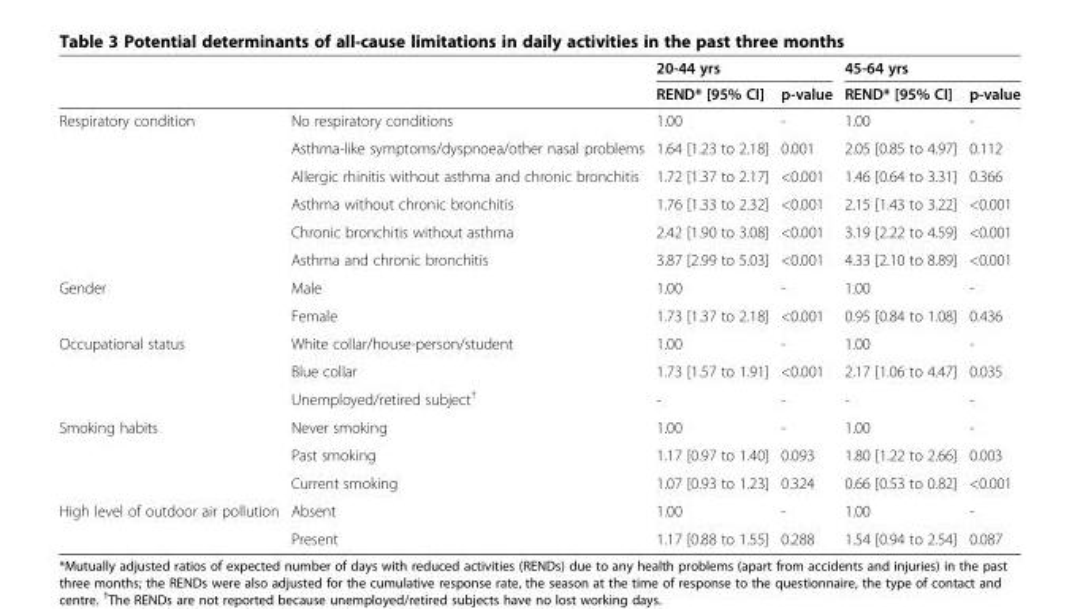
<table><thead><tr><td rowspan="2"></td><td rowspan="2"></td><td colspan="2">20-44 yrs</td><td colspan="2">45-64 yrs</td></tr><tr><td>REND* [95% CI]</td><td>p-value</td><td>REND* [95% CI]</td><td>p-value</td></tr></thead><tbody><tr><td rowspan="6">Respiratory condition</td><td>No respiratory conditions</td><td>1.00</td><td>-</td><td>1.00</td><td>-</td></tr><tr><td>Asthma-like symptoms/dyspnoea/other nasal problems</td><td>1.64 [1.23 to 2.18]</td><td>0.001</td><td>2.05 [0.85 to 4.97]</td><td>0.112</td></tr><tr><td>Allergic rhinitis without asthma and chronic bronchitis</td><td>1.72 [1.37 to 2.17]</td><td>&lt;0.001</td><td>1.46 [0.64 to 3.31]</td><td>0.366</td></tr><tr><td>Asthma without chronic bronchitis</td><td>1.76 [1.33 to 2.32]</td><td>&lt;0.001</td><td>2.15 [1.43 to 3.22]</td><td>&lt;0.001</td></tr><tr><td>Chronic bronchitis without asthma</td><td>2.42 [1.90 to 3.08]</td><td>&lt;0.001</td><td>3.19 [2.22 to 4.59]</td><td>&lt;0.001</td></tr><tr><td>Asthma and chronic bronchitis</td><td>3.87 [2.99 to 5.03]</td><td>&lt;0.001</td><td>4.33 [2.10 to 8.89]</td><td>&lt;0.001</td></tr><tr><td rowspan="2">Gender</td><td>Male</td><td>1.00</td><td>-</td><td>1.00</td><td>-</td></tr><tr><td>Female</td><td>1.73 [1.37 to 2.18]</td><td>&lt;0.001</td><td>0.95 [0.84 to 1.08]</td><td>0.436</td></tr><tr><td rowspan="3">Occupational status</td><td>White collar/house-person/student</td><td>1.00</td><td>-</td><td>1.00</td><td>-</td></tr><tr><td>Blue collar</td><td>1.73 [1.57 to 1.91]</td><td>&lt;0.001</td><td>2.17 [1.06 to 4.47]</td><td>0.035</td></tr><tr><td>Unemployed/retired subject<sup>†</sup></td><td>-</td><td>-</td><td>-</td><td>-</td></tr><tr><td rowspan="3">Smoking habits</td><td>Never smoking</td><td>1.00</td><td>-</td><td>1.00</td><td>-</td></tr><tr><td>Past smoking</td><td>1.17 [0.97 to 1.40]</td><td>0.093</td><td>1.80 [1.22 to 2.66]</td><td>0.003</td></tr><tr><td>Current smoking</td><td>1.07 [0.93 to 1.23]</td><td>0.324</td><td>0.66 [0.53 to 0.82]</td><td>&lt;0.001</td></tr><tr><td rowspan="2">High level of outdoor air pollution</td><td>Absent</td><td>1.00</td><td>-</td><td>1.00</td><td>-</td></tr><tr><td>Present</td><td>1.17 [0.88 to 1.55]</td><td>0.288</td><td>1.54 [0.94 to 2.54]</td><td>0.087</td></tr></tbody></table>